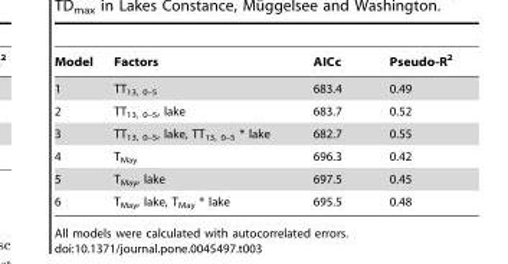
<table><thead><tr><td>Model</td><td>Factors</td><td>AICc</td><td>Pseudo-R<sup>2</sup></td></tr></thead><tbody><tr><td>1</td><td>TT<sub>13, 0–5</sub></td><td>683.4</td><td>0.49</td></tr><tr><td>2</td><td>TT<sub>13, 0–5</sub>, lake</td><td>683.7</td><td>0.52</td></tr><tr><td>3</td><td>TT<sub>13, 0–5</sub>, lake, TT<sub>13, 0–5</sub> * lake</td><td>682.7</td><td>0.55</td></tr><tr><td>4</td><td>T<sub>May</sub></td><td>696.3</td><td>0.42</td></tr><tr><td>5</td><td>T<sub>May</sub>, lake</td><td>697.5</td><td>0.45</td></tr><tr><td>6</td><td>T<sub>May</sub>, lake, T<sub>May</sub> * lake</td><td>695.5</td><td>0.48</td></tr></tbody></table>